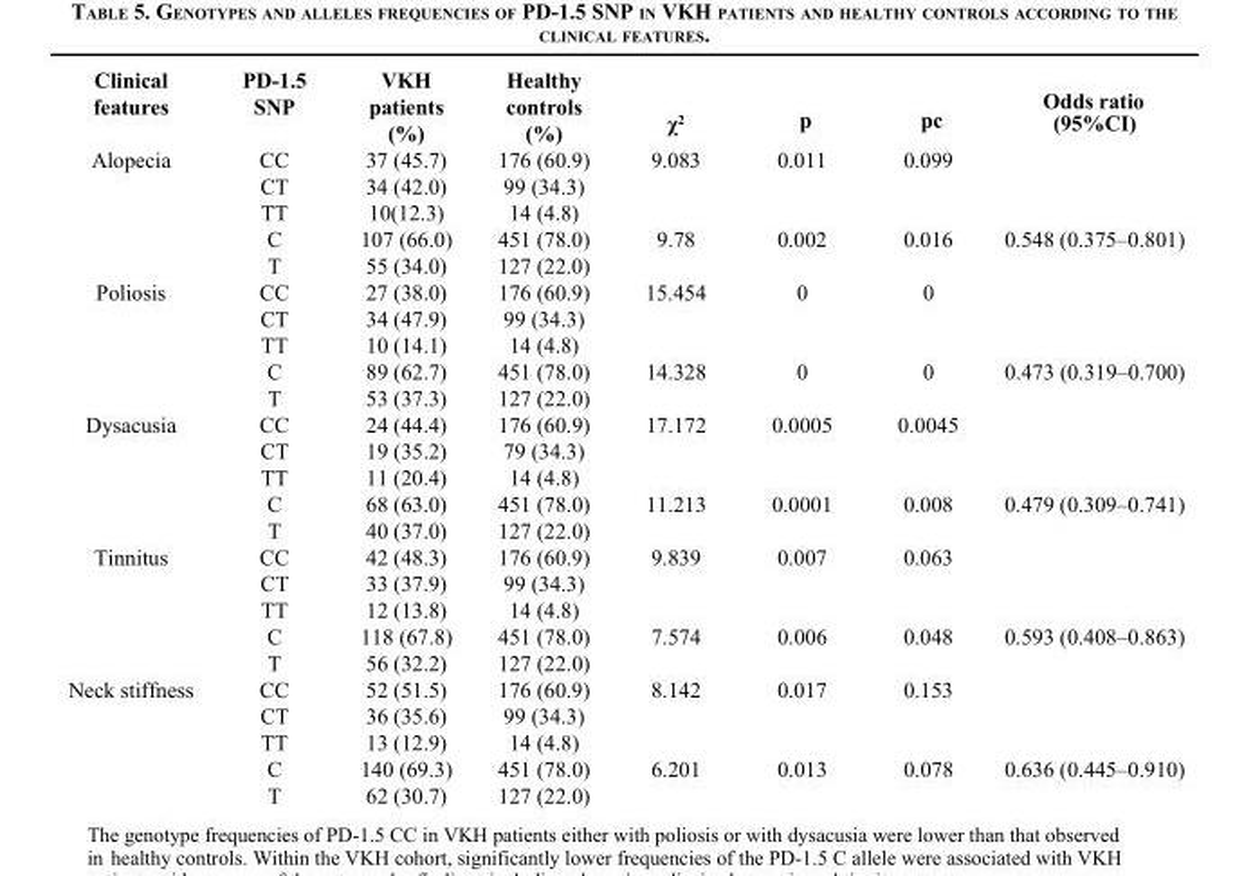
<table><thead><tr><td>Clinical features</td><td>PD-1.5 SNP</td><td>VKH patients (%)</td><td>Healthy controls (%)</td><td>χ<sup>2</sup></td><td>p</td><td>pc</td><td>Odds ratio (95%CI)</td></tr></thead><tbody><tr><td rowspan="5">Alopecia</td><td>CC</td><td>37 (45.7)</td><td>176 (60.9)</td><td>9.083</td><td>0.011</td><td>0.099</td><td></td></tr><tr><td>CT</td><td>34 (42.0)</td><td>99 (34.3)</td><td></td><td></td><td></td><td></td></tr><tr><td>TT</td><td>10(12.3)</td><td>14 (4.8)</td><td></td><td></td><td></td><td></td></tr><tr><td>C</td><td>107 (66.0)</td><td>451 (78.0)</td><td>9.78</td><td>0.002</td><td>0.016</td><td>0.548 (0.375–0.801)</td></tr><tr><td>T</td><td>55 (34.0)</td><td>127 (22.0)</td><td></td><td></td><td></td><td></td></tr><tr><td rowspan="5">Poliosis</td><td>CC</td><td>27 (38.0)</td><td>176 (60.9)</td><td>15.454</td><td>0</td><td>0</td><td></td></tr><tr><td>CT</td><td>34 (47.9)</td><td>99 (34.3)</td><td></td><td></td><td></td><td></td></tr><tr><td>TT</td><td>10 (14.1)</td><td>14 (4.8)</td><td></td><td></td><td></td><td></td></tr><tr><td>C</td><td>89 (62.7)</td><td>451 (78.0)</td><td>14.328</td><td>0</td><td>0</td><td>0.473 (0.319–0.700)</td></tr><tr><td>T</td><td>53 (37.3)</td><td>127 (22.0)</td><td></td><td></td><td></td><td></td></tr><tr><td rowspan="5">Dysacusia</td><td>CC</td><td>24 (44.4)</td><td>176 (60.9)</td><td>17.172</td><td>0.0005</td><td>0.0045</td><td></td></tr><tr><td>CT</td><td>19 (35.2)</td><td>79 (34.3)</td><td></td><td></td><td></td><td></td></tr><tr><td>TT</td><td>11 (20.4)</td><td>14 (4.8)</td><td></td><td></td><td></td><td></td></tr><tr><td>C</td><td>68 (63.0)</td><td>451 (78.0)</td><td>11.213</td><td>0.0001</td><td>0.008</td><td>0.479 (0.309–0.741)</td></tr><tr><td>T</td><td>40 (37.0)</td><td>127 (22.0)</td><td></td><td></td><td></td><td></td></tr><tr><td rowspan="5">Tinnitus</td><td>CC</td><td>42 (48.3)</td><td>176 (60.9)</td><td>9.839</td><td>0.007</td><td>0.063</td><td></td></tr><tr><td>CT</td><td>33 (37.9)</td><td>99 (34.3)</td><td></td><td></td><td></td><td></td></tr><tr><td>TT</td><td>12 (13.8)</td><td>14 (4.8)</td><td></td><td></td><td></td><td></td></tr><tr><td>C</td><td>118 (67.8)</td><td>451 (78.0)</td><td>7.574</td><td>0.006</td><td>0.048</td><td>0.593 (0.408–0.863)</td></tr><tr><td>T</td><td>56 (32.2)</td><td>127 (22.0)</td><td></td><td></td><td></td><td></td></tr><tr><td rowspan="5">Neck stiffness</td><td>CC</td><td>52 (51.5)</td><td>176 (60.9)</td><td>8.142</td><td>0.017</td><td>0.153</td><td></td></tr><tr><td>CT</td><td>36 (35.6)</td><td>99 (34.3)</td><td></td><td></td><td></td><td></td></tr><tr><td>TT</td><td>13 (12.9)</td><td>14 (4.8)</td><td></td><td></td><td></td><td></td></tr><tr><td>C</td><td>140 (69.3)</td><td>451 (78.0)</td><td>6.201</td><td>0.013</td><td>0.078</td><td>0.636 (0.445–0.910)</td></tr><tr><td>T</td><td>62 (30.7)</td><td>127 (22.0)</td><td></td><td></td><td></td><td></td></tr></tbody></table>